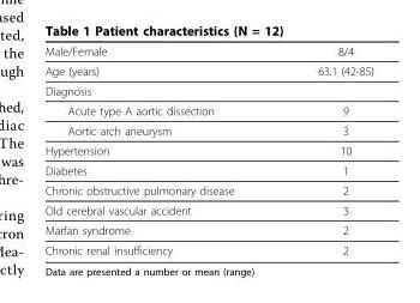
<table><thead><tr><td>Male/Female</td><td>8/4</td></tr></thead><tbody><tr><td>Age (years)</td><td>63.1 (42-85)</td></tr><tr><td colspan="2">Diagnosis</td></tr><tr><td>Acute type A aortic dissection</td><td>9</td></tr><tr><td>Aortic arch aneurysm</td><td>3</td></tr><tr><td>Hypertension</td><td>10</td></tr><tr><td>Diabetes</td><td>1</td></tr><tr><td>Chronic obstructive pulmonary disease</td><td>2</td></tr><tr><td>Old cerebral vascular accident</td><td>3</td></tr><tr><td>Marfan syndrome</td><td>2</td></tr><tr><td>Chronic renal insufficiency</td><td>2</td></tr></tbody></table>